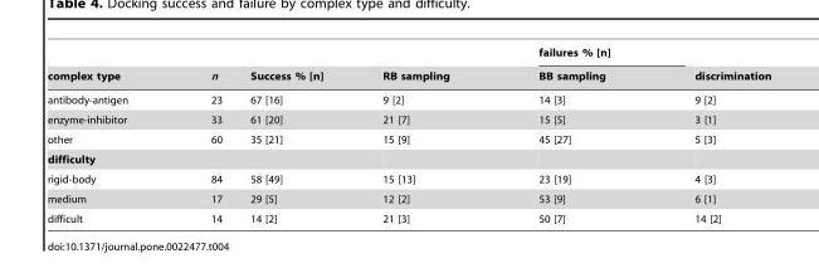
<table><thead><tr><td rowspan="2">complex type</td><td rowspan="2">n</td><td rowspan="2">Success % [n]</td><td rowspan="2">RB sampling</td><td rowspan="2">failures % [n] BB sampling</td><td rowspan="2">discrimination</td></tr><tr></tr></thead><tbody><tr><td>antibody-antigen</td><td>23</td><td>67 [16]</td><td>9 [2]</td><td>14 [3]</td><td>9 [2]</td></tr><tr><td>enzyme-inhibitor</td><td>33</td><td>61 [20]</td><td>21 [7]</td><td>15 [5]</td><td>3 [1]</td></tr><tr><td>other</td><td>60</td><td>35 [21]</td><td>15 [9]</td><td>45 [27]</td><td>5 [3]</td></tr><tr><td colspan="6">difficulty</td></tr><tr><td>rigid-body</td><td>84</td><td>58 [49]</td><td>15 [13]</td><td>23 [19]</td><td>4 [3]</td></tr><tr><td>medium</td><td>17</td><td>29 [5]</td><td>12 [2]</td><td>53 [9]</td><td>6 [1]</td></tr><tr><td>difficult</td><td>14</td><td>14 [2]</td><td>21 [3]</td><td>50 [7]</td><td>14 [2]</td></tr></tbody></table>